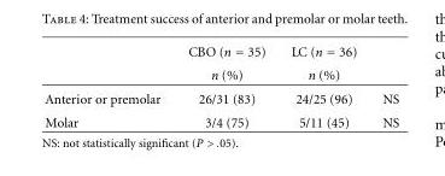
<table><thead><tr><td rowspan="2"></td><td rowspan="2">CBO (n = 35) n (%)</td><td rowspan="2">LC (n = 36) n (%)</td><td rowspan="2"></td></tr><tr></tr></thead><tbody><tr><td>Anterior or premolar</td><td>26/31 (83)</td><td>24/25 (96)</td><td>NS</td></tr><tr><td>Molar</td><td>3/4 (75)</td><td>5/11 (45)</td><td>NS</td></tr></tbody></table>